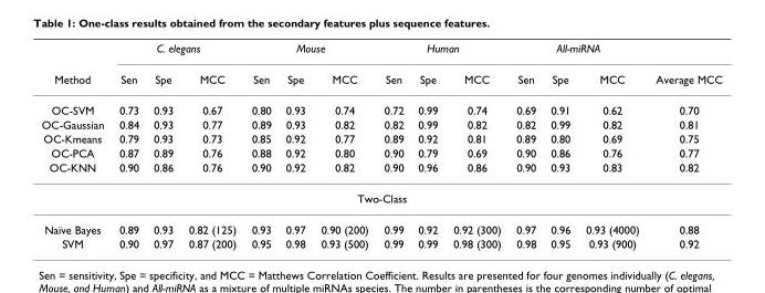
<table><thead><tr><td rowspan="2">Method</td><td colspan="3">C. elegans</td><td colspan="3">Mouse</td><td colspan="3">Human</td><td colspan="3">All-miRNA</td><td rowspan="2">Average MCC</td></tr><tr><td>Sen</td><td>Spe</td><td>MCC</td><td>Sen</td><td>Spe</td><td>MCC</td><td>Sen</td><td>Spe</td><td>MCC</td><td>Sen</td><td>Spe</td><td>MCC</td></tr></thead><tbody><tr><td>OC-SVM</td><td>0.73</td><td>0.93</td><td>0.67</td><td>0.80</td><td>0.93</td><td>0.74</td><td>0.72</td><td>0.99</td><td>0.74</td><td>0.69</td><td>0.91</td><td>0.62</td><td>0.70</td></tr><tr><td>OC-Gaussian</td><td>0.84</td><td>0.93</td><td>0.77</td><td>0.89</td><td>0.93</td><td>0.82</td><td>0.82</td><td>0.99</td><td>0.82</td><td>0.82</td><td>0.99</td><td>0.82</td><td>0.81</td></tr><tr><td>OC-Kmeans</td><td>0.79</td><td>0.93</td><td>0.73</td><td>0.85</td><td>0.92</td><td>0.77</td><td>0.89</td><td>0.92</td><td>0.81</td><td>0.89</td><td>0.80</td><td>0.69</td><td>0.75</td></tr><tr><td>OC-PCA</td><td>0.87</td><td>0.89</td><td>0.76</td><td>0.88</td><td>0.92</td><td>0.80</td><td>0.90</td><td>0.79</td><td>0.69</td><td>0.90</td><td>0.86</td><td>0.76</td><td>0.77</td></tr><tr><td>OC-KNN</td><td>0.90</td><td>0.86</td><td>0.76</td><td>0.90</td><td>0.92</td><td>0.82</td><td>0.90</td><td>0.96</td><td>0.86</td><td>0.90</td><td>0.93</td><td>0.83</td><td>0.82</td></tr><tr><td colspan="14">Two-Class</td></tr><tr><td>Naïve Bayes</td><td>0.89</td><td>0.93</td><td>0.82 (125)</td><td>0.93</td><td>0.97</td><td>0.90 (200)</td><td>0.99</td><td>0.92</td><td>0.92 (300)</td><td>0.97</td><td>0.96</td><td>0.93 (4000)</td><td>0.88</td></tr><tr><td>SVM</td><td>0.90</td><td>0.97</td><td>0.87 (200)</td><td>0.95</td><td>0.98</td><td>0.93 (500)</td><td>0.99</td><td>0.99</td><td>0.98 (300)</td><td>0.98</td><td>0.95</td><td>0.93 (900)</td><td>0.92</td></tr></tbody></table>